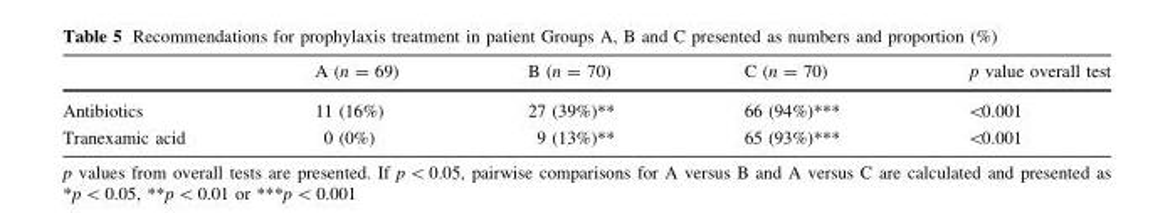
<table><thead><tr><td></td><td>A (n = 69)</td><td>B (n = 70)</td><td>C (n = 70)</td><td>p value overall test</td></tr></thead><tbody><tr><td>Antibiotics</td><td>11 (16%)</td><td>27 (39%)**</td><td>66 (94%)***</td><td>&lt;0.001</td></tr><tr><td>Tranexamic acid</td><td>0 (0%)</td><td>9 (13%)**</td><td>65 (93%)***</td><td>&lt;0.001</td></tr></tbody></table>